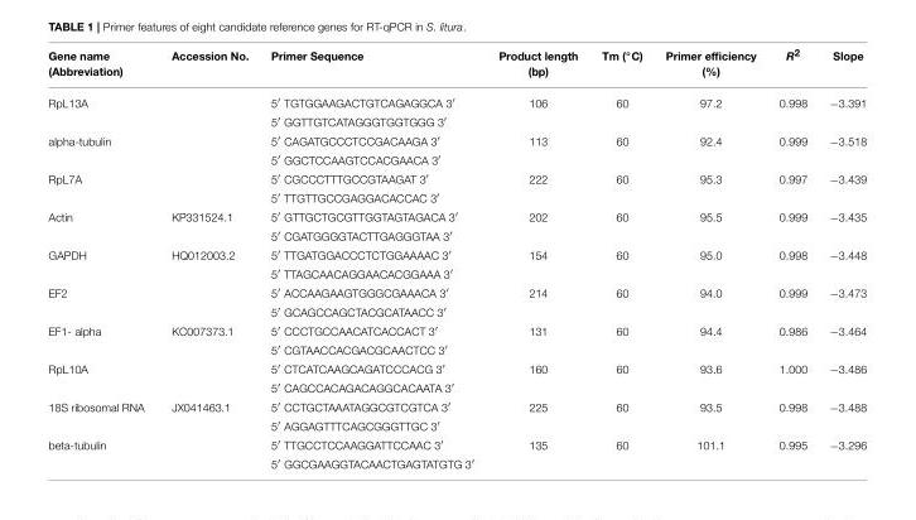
<table><thead><tr><td>Gene name (Abbreviation)</td><td>Accession No.</td><td>Primer Sequence</td><td>Product length (bp)</td><td>Tm (◦C)</td><td>Primer efficiency (%)</td><td>R<sup>2</sup></td><td>Slope</td></tr></thead><tbody><tr><td rowspan="2">RpL13A</td><td></td><td>5′ TGTGGAAGACTGTCAGAGGCA 3′</td><td>106</td><td>60</td><td>97.2</td><td>0.998</td><td>−3.391</td></tr><tr><td></td><td>5′ GGTTGTCATAGGGTGGTGGG 3′</td><td></td><td></td><td></td><td></td><td></td></tr><tr><td rowspan="2">alpha-tubulin</td><td></td><td>5′ CAGATGCCCTCCGACAAGA 3′</td><td>113</td><td>60</td><td>92.4</td><td>0.999</td><td>−3.518</td></tr><tr><td></td><td>5′ GGCTCCAAGTCCACGAACA 3′</td><td></td><td></td><td></td><td></td><td></td></tr><tr><td rowspan="2">RpL7A</td><td></td><td>5′ CGCCCTTTGCCGTAAGAT 3′</td><td>222</td><td>60</td><td>95.3</td><td>0.997</td><td>−3.439</td></tr><tr><td></td><td>5′ TTGTTGCCGAGGACACCAC 3′</td><td></td><td></td><td></td><td></td><td></td></tr><tr><td rowspan="2">Actin</td><td>KP331524.1</td><td>5′ GTTGCTGCGTTGGTAGTAGACA 3′</td><td>202</td><td>60</td><td>95.5</td><td>0.999</td><td>−3.435</td></tr><tr><td></td><td>5′ CGATGGGGTACTTGAGGGTAA 3′</td><td></td><td></td><td></td><td></td><td></td></tr><tr><td rowspan="2">GAPDH</td><td>HQ012003.2</td><td>5′ TTGATGGACCCTCTGGAAAAC 3′</td><td>154</td><td>60</td><td>95.0</td><td>0.998</td><td>−3.448</td></tr><tr><td></td><td>5′ TTAGCAACAGGAACACGGAAA 3′</td><td></td><td></td><td></td><td></td><td></td></tr><tr><td rowspan="2">EF2</td><td></td><td>5′ ACCAAGAAGTGGGCGAAACA 3′</td><td>214</td><td>60</td><td>94.0</td><td>0.999</td><td>−3.473</td></tr><tr><td></td><td>5′ GCAGCCAGCTACGCATAACC 3′</td><td></td><td></td><td></td><td></td><td></td></tr><tr><td rowspan="2">EF1- alpha</td><td>KC007373.1</td><td>5′ CCCTGCCAACATCACCACT 3′</td><td>131</td><td>60</td><td>94.4</td><td>0.986</td><td>−3.464</td></tr><tr><td></td><td>5′ CGTAACCACGACGCAACTCC 3′</td><td></td><td></td><td></td><td></td><td></td></tr><tr><td rowspan="2">RpL10A</td><td></td><td>5′ CTCATCAAGCAGATCCCACG 3′</td><td>160</td><td>60</td><td>93.6</td><td>1.000</td><td>−3.486</td></tr><tr><td></td><td>5′ CAGCCACAGACAGGCACAATA 3′</td><td></td><td></td><td></td><td></td><td></td></tr><tr><td rowspan="2">18S ribosomal RNA</td><td>JX041463.1</td><td>5′ CCTGCTAAATAGGCGTCGTCA 3′</td><td>225</td><td>60</td><td>93.5</td><td>0.998</td><td>−3.488</td></tr><tr><td></td><td>5′ AGGAGTTTCAGCGGGTTGC 3′</td><td></td><td></td><td></td><td></td><td></td></tr><tr><td rowspan="2">beta-tubulin</td><td></td><td>5′ TTGCCTCCAAGGATTCCAAC 3′</td><td>135</td><td>60</td><td>101.1</td><td>0.995</td><td>−3.296</td></tr><tr><td></td><td>5′ GGCGAAGGTACAACTGAGTATGTG 3′</td><td></td><td></td><td></td><td></td><td></td></tr></tbody></table>